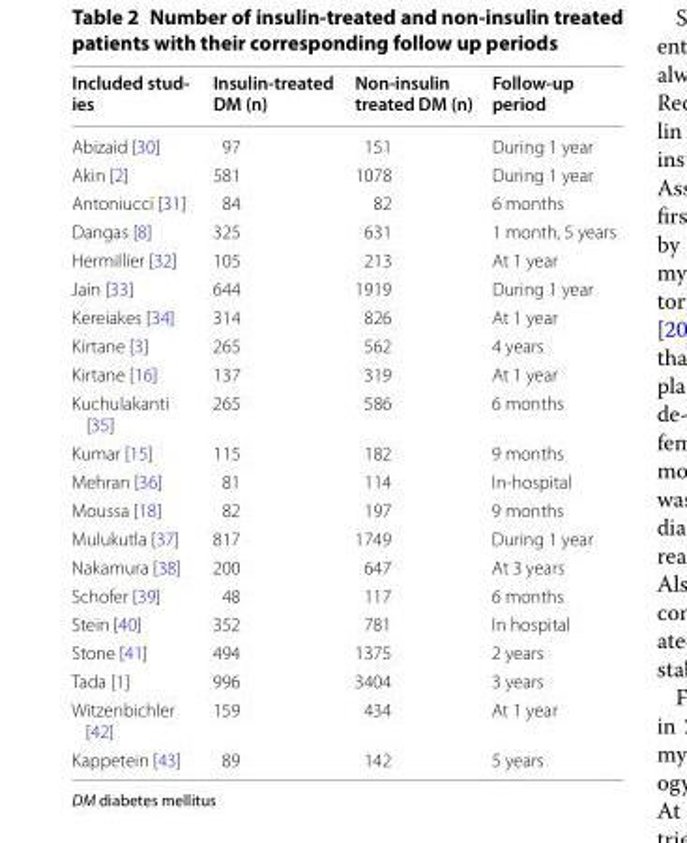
<table><thead><tr><td>Included stud‑ ies</td><td>Insulin‑treated DM (n)</td><td>Non‑insulin treated DM (n)</td><td>Follow‑up period</td></tr></thead><tbody><tr><td>Abizaid [30]</td><td>97</td><td>151</td><td>During 1 year</td></tr><tr><td>Akin [2]</td><td>581</td><td>1078</td><td>During 1 year</td></tr><tr><td>Antoniucci [31]</td><td>84</td><td>82</td><td>6 months</td></tr><tr><td>Dangas [8]</td><td>325</td><td>631</td><td>1 month, 5 years</td></tr><tr><td>Hermillier [32]</td><td>105</td><td>213</td><td>At 1 year</td></tr><tr><td>Jain [33]</td><td>644</td><td>1919</td><td>During 1 year</td></tr><tr><td>Kereiakes [34]</td><td>314</td><td>826</td><td>At 1 year</td></tr><tr><td>Kirtane [3]</td><td>265</td><td>562</td><td>4 years</td></tr><tr><td>Kirtane [16]</td><td>137</td><td>319</td><td>At 1 year</td></tr><tr><td>Kuchulakanti [35]</td><td>265</td><td>586</td><td>6 months</td></tr><tr><td>Kumar [15]</td><td>115</td><td>182</td><td>9 months</td></tr><tr><td>Mehran [36]</td><td>81</td><td>114</td><td>In‑hospital</td></tr><tr><td>Moussa [18]</td><td>82</td><td>197</td><td>9 months</td></tr><tr><td>Mulukutla [37]</td><td>817</td><td>1749</td><td>During 1 year</td></tr><tr><td>Nakamura [38]</td><td>200</td><td>647</td><td>At 3 years</td></tr><tr><td>Schofer [39]</td><td>48</td><td>117</td><td>6 months</td></tr><tr><td>Stein [40]</td><td>352</td><td>781</td><td>In hospital</td></tr><tr><td>Stone [41]</td><td>494</td><td>1375</td><td>2 years</td></tr><tr><td>Tada [1]</td><td>996</td><td>3404</td><td>3 years</td></tr><tr><td>Witzenbichler [42]</td><td>159</td><td>434</td><td>At 1 year</td></tr><tr><td>Kappetein [43]</td><td>89</td><td>142</td><td>5 years</td></tr></tbody></table>